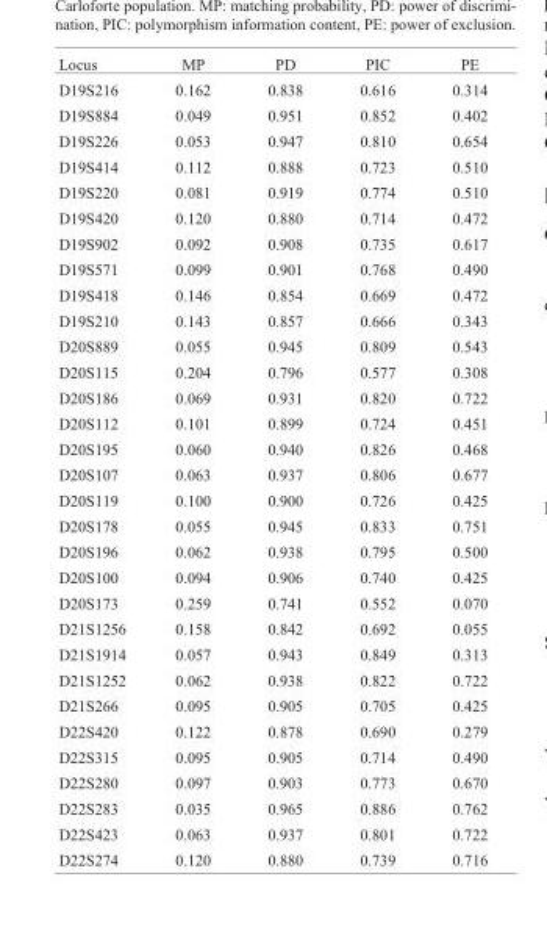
<table><thead><tr><td>Locus</td><td>MP</td><td>PD</td><td>PIC</td><td>PE</td></tr></thead><tbody><tr><td>D19S216</td><td>0.162</td><td>0.838</td><td>0.616</td><td>0.314</td></tr><tr><td>D19S884</td><td>0.049</td><td>0.951</td><td>0.852</td><td>0.402</td></tr><tr><td>D19S226</td><td>0.053</td><td>0.947</td><td>0.810</td><td>0.654</td></tr><tr><td>D19S414</td><td>0.112</td><td>0.888</td><td>0.723</td><td>0.510</td></tr><tr><td>D19S220</td><td>0.081</td><td>0.919</td><td>0.774</td><td>0.510</td></tr><tr><td>D19S420</td><td>0.120</td><td>0.880</td><td>0.714</td><td>0.472</td></tr><tr><td>D19S902</td><td>0.092</td><td>0.908</td><td>0.735</td><td>0.617</td></tr><tr><td>D19S571</td><td>0.099</td><td>0.901</td><td>0.768</td><td>0.490</td></tr><tr><td>D19S418</td><td>0.146</td><td>0.854</td><td>0.669</td><td>0.472</td></tr><tr><td>D19S210</td><td>0.143</td><td>0.857</td><td>0.666</td><td>0.343</td></tr><tr><td>D20S889</td><td>0.055</td><td>0.945</td><td>0.809</td><td>0.543</td></tr><tr><td>D20S115</td><td>0.204</td><td>0.796</td><td>0.577</td><td>0.308</td></tr><tr><td>D20S186</td><td>0.069</td><td>0.931</td><td>0.820</td><td>0.722</td></tr><tr><td>D20S112</td><td>0.101</td><td>0.899</td><td>0.724</td><td>0.451</td></tr><tr><td>D20S195</td><td>0.060</td><td>0.940</td><td>0.826</td><td>0.468</td></tr><tr><td>D20S107</td><td>0.063</td><td>0.937</td><td>0.806</td><td>0.677</td></tr><tr><td>D20S119</td><td>0.100</td><td>0.900</td><td>0.726</td><td>0.425</td></tr><tr><td>D20S178</td><td>0.055</td><td>0.945</td><td>0.833</td><td>0.751</td></tr><tr><td>D20S196</td><td>0.062</td><td>0.938</td><td>0.795</td><td>0.500</td></tr><tr><td>D20S100</td><td>0.094</td><td>0.906</td><td>0.740</td><td>0.425</td></tr><tr><td>D20S173</td><td>0.259</td><td>0.741</td><td>0.552</td><td>0.070</td></tr><tr><td>D21S1256</td><td>0.158</td><td>0.842</td><td>0.692</td><td>0.055</td></tr><tr><td>D21S1914</td><td>0.057</td><td>0.943</td><td>0.849</td><td>0.313</td></tr><tr><td>D21S1252</td><td>0.062</td><td>0.938</td><td>0.822</td><td>0.722</td></tr><tr><td>D21S266</td><td>0.095</td><td>0.905</td><td>0.705</td><td>0.425</td></tr><tr><td>D22S420</td><td>0.122</td><td>0.878</td><td>0.690</td><td>0.279</td></tr><tr><td>D22S315</td><td>0.095</td><td>0.905</td><td>0.714</td><td>0.490</td></tr><tr><td>D22S280</td><td>0.097</td><td>0.903</td><td>0.773</td><td>0.670</td></tr><tr><td>D22S283</td><td>0.035</td><td>0.965</td><td>0.886</td><td>0.762</td></tr><tr><td>D22S423</td><td>0.063</td><td>0.937</td><td>0.801</td><td>0.722</td></tr><tr><td>D22S274</td><td>0.120</td><td>0.880</td><td>0.739</td><td>0.716</td></tr></tbody></table>